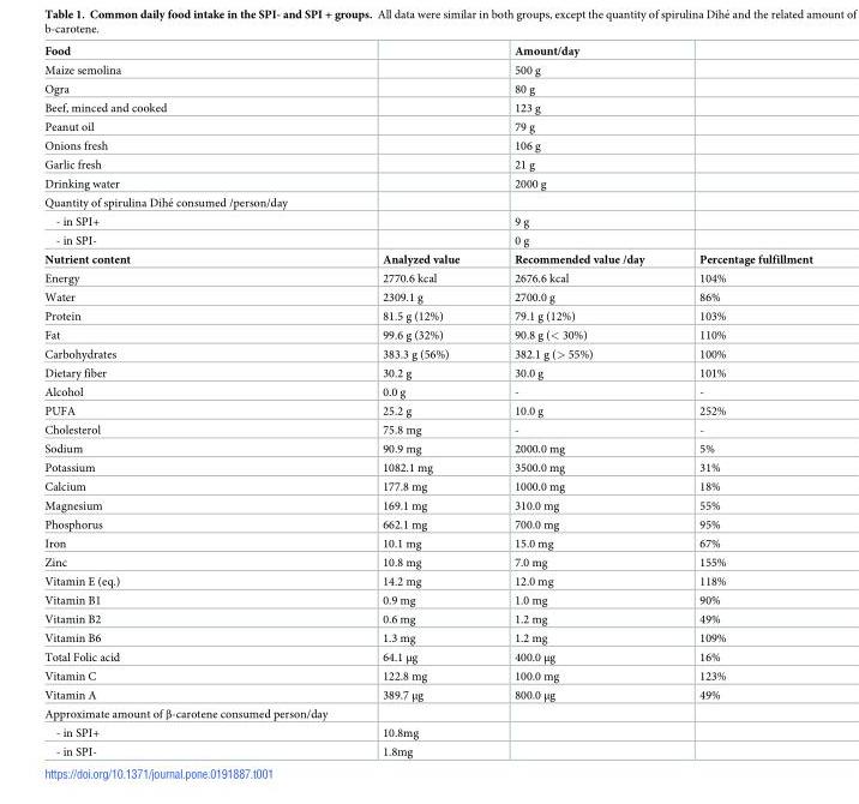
<table><tbody><tr><td>Food</td><td></td><td>Amount/day</td><td></td></tr><tr><td>Maize semolina</td><td></td><td>500 g</td><td></td></tr><tr><td>Ogra</td><td></td><td>80 g</td><td></td></tr><tr><td>Beef, minced and cooked</td><td></td><td>123 g</td><td></td></tr><tr><td>Peanut oil</td><td></td><td>79 g</td><td></td></tr><tr><td>Onions fresh</td><td></td><td>106 g</td><td></td></tr><tr><td>Garlic fresh</td><td></td><td>21 g</td><td></td></tr><tr><td>Drinking water</td><td></td><td>2000 g</td><td></td></tr><tr><td colspan="4">Quantity of spirulina Dihe´ consumed /person/day</td></tr><tr><td>- in SPI+</td><td></td><td>9 g</td><td></td></tr><tr><td>- in SPI-</td><td></td><td>0 g</td><td></td></tr><tr><td>Nutrient content</td><td>Analyzed value</td><td>Recommended value /day</td><td>Percentage fulfillment</td></tr><tr><td>Energy</td><td>2770.6 kcal</td><td>2676.6 kcal</td><td>104%</td></tr><tr><td>Water</td><td>2309.1 g</td><td>2700.0 g</td><td>86%</td></tr><tr><td>Protein</td><td>81.5 g (12%)</td><td>79.1 g (12%)</td><td>103%</td></tr><tr><td>Fat</td><td>99.6 g (32%)</td><td>90.8 g (&lt; 30%)</td><td>110%</td></tr><tr><td>Carbohydrates</td><td>383.3 g (56%)</td><td>382.1 g (&gt; 55%)</td><td>100%</td></tr><tr><td>Dietary fiber</td><td>30.2 g</td><td>30.0 g</td><td>101%</td></tr><tr><td>Alcohol</td><td>0.0 g</td><td>-</td><td>-</td></tr><tr><td>PUFA</td><td>25.2 g</td><td>10.0 g</td><td>252%</td></tr><tr><td>Cholesterol</td><td>75.8 mg</td><td>-</td><td>-</td></tr><tr><td>Sodium</td><td>90.9 mg</td><td>2000.0 mg</td><td>5%</td></tr><tr><td>Potassium</td><td>1082.1 mg</td><td>3500.0 mg</td><td>31%</td></tr><tr><td>Calcium</td><td>177.8 mg</td><td>1000.0 mg</td><td>18%</td></tr><tr><td>Magnesium</td><td>169.1 mg</td><td>310.0 mg</td><td>55%</td></tr><tr><td>Phosphorus</td><td>662.1 mg</td><td>700.0 mg</td><td>95%</td></tr><tr><td>Iron</td><td>10.1 mg</td><td>15.0 mg</td><td>67%</td></tr><tr><td>Zinc</td><td>10.8 mg</td><td>7.0 mg</td><td>155%</td></tr><tr><td>Vitamin E (eq.)</td><td>14.2 mg</td><td>12.0 mg</td><td>118%</td></tr><tr><td>Vitamin B1</td><td>0.9 mg</td><td>1.0 mg</td><td>90%</td></tr><tr><td>Vitamin B2</td><td>0.6 mg</td><td>1.2 mg</td><td>49%</td></tr><tr><td>Vitamin B6</td><td>1.3 mg</td><td>1.2 mg</td><td>109%</td></tr><tr><td>Total Folic acid</td><td>64.1 μg</td><td>400.0 μg</td><td>16%</td></tr><tr><td>Vitamin C</td><td>122.8 mg</td><td>100.0 mg</td><td>123%</td></tr><tr><td>Vitamin A</td><td>389.7 μg</td><td>800.0 μg</td><td>49%</td></tr><tr><td colspan="4">Approximate amount of β-carotene consumed person/day</td></tr><tr><td>- in SPI+</td><td>10.8mg</td><td></td><td></td></tr><tr><td>- in SPI-</td><td>1.8mg</td><td></td><td></td></tr></tbody></table>